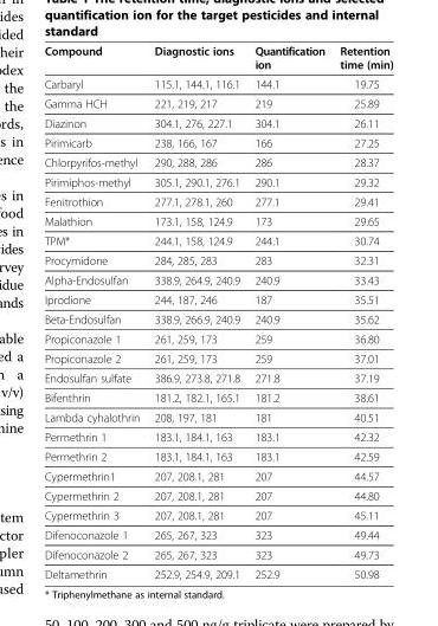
<table><thead><tr><td>Compound</td><td>Diagnostic ions</td><td>Quantification ion</td><td>Retention time (min)</td></tr></thead><tbody><tr><td>Carbaryl</td><td>115.1, 144.1, 116.1</td><td>144.1</td><td>19.75</td></tr><tr><td>Gamma HCH</td><td>221, 219, 217</td><td>219</td><td>25.89</td></tr><tr><td>Diazinon</td><td>304.1, 276, 227.1</td><td>304.1</td><td>26.11</td></tr><tr><td>Pirimicarb</td><td>238, 166, 167</td><td>166</td><td>27.25</td></tr><tr><td>Chlorpyrifos-methyl</td><td>290, 288, 286</td><td>286</td><td>28.37</td></tr><tr><td>Pirimiphos-methyl</td><td>305.1, 290.1, 276.1</td><td>290.1</td><td>29.32</td></tr><tr><td>Fenitrothion</td><td>277.1, 278.1, 260</td><td>277.1</td><td>29.41</td></tr><tr><td>Malathion</td><td>173.1, 158, 124.9</td><td>173</td><td>29.65</td></tr><tr><td>TPM*</td><td>244.1, 158, 124.9</td><td>244.1</td><td>30.74</td></tr><tr><td>Procymidone</td><td>284, 285, 283</td><td>283</td><td>32.31</td></tr><tr><td>Alpha-Endosulfan</td><td>338.9, 264.9, 240.9</td><td>240.9</td><td>33.43</td></tr><tr><td>Iprodione</td><td>244, 187, 246</td><td>187</td><td>35.51</td></tr><tr><td>Beta-Endosulfan</td><td>338.9, 266.9, 240.9</td><td>240.9</td><td>35.62</td></tr><tr><td>Propiconazole 1</td><td>261, 259, 173</td><td>259</td><td>36.80</td></tr><tr><td>Propiconazole 2</td><td>261, 259, 173</td><td>259</td><td>37.01</td></tr><tr><td>Endosulfan sulfate</td><td>386.9, 273.8, 271.8</td><td>271.8</td><td>37.19</td></tr><tr><td>Bifenthrin</td><td>181.2, 182.1, 165.1</td><td>181.2</td><td>38.61</td></tr><tr><td>Lambda cyhalothrin</td><td>208, 197, 181</td><td>181</td><td>40.51</td></tr><tr><td>Permethrin 1</td><td>183.1, 184.1, 163</td><td>183.1</td><td>42.32</td></tr><tr><td>Permethrin 2</td><td>183.1, 184.1, 163</td><td>183.1</td><td>42.59</td></tr><tr><td>Cypermethrin1</td><td>207, 208.1, 281</td><td>207</td><td>44.57</td></tr><tr><td>Cypermethrin 2</td><td>207, 208.1, 281</td><td>207</td><td>44.80</td></tr><tr><td>Cypermethrin 3</td><td>207, 208.1, 281</td><td>207</td><td>45.11</td></tr><tr><td>Difenoconazole 1</td><td>265, 267, 323</td><td>323</td><td>49.44</td></tr><tr><td>Difenoconazole 2</td><td>265, 267, 323</td><td>323</td><td>49.73</td></tr><tr><td>Deltamethrin</td><td>252.9, 254.9, 209.1</td><td>252.9</td><td>50.98</td></tr></tbody></table>